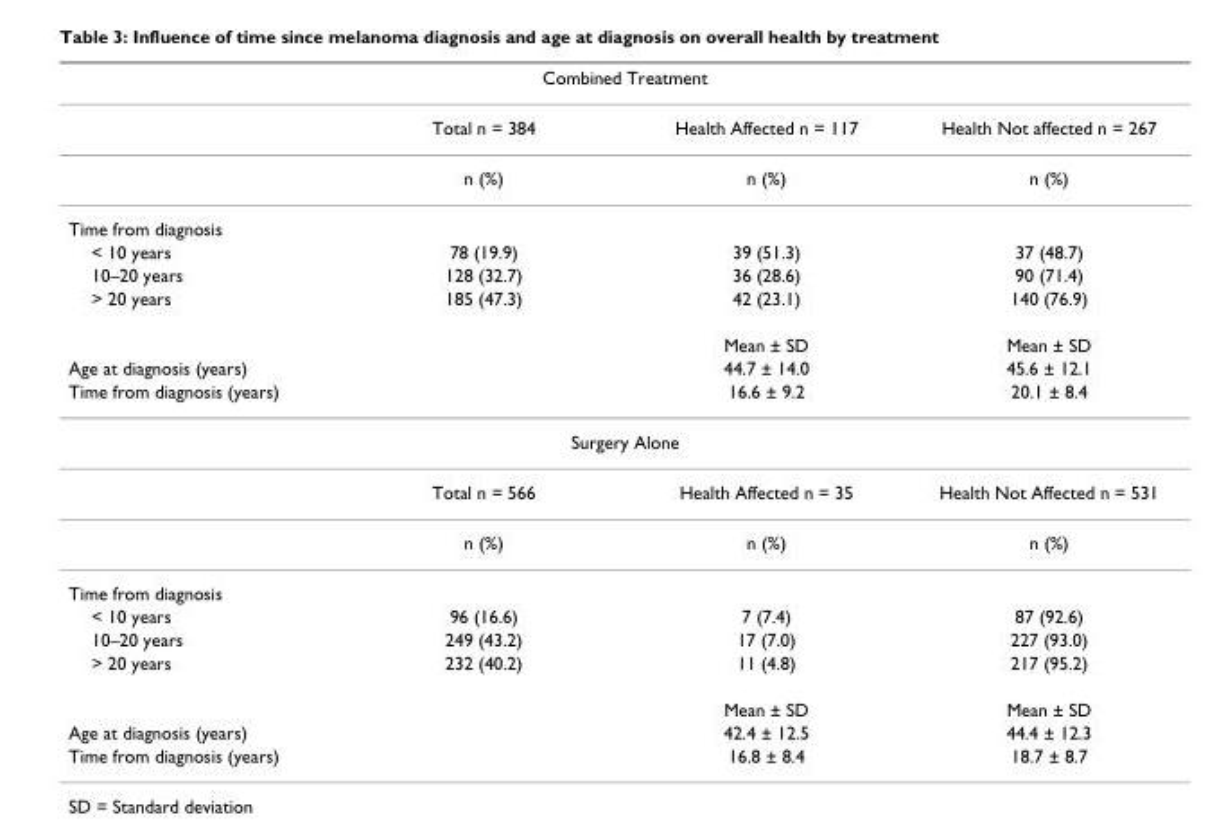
<table><thead><tr><td colspan="4">Combined Treatment</td></tr><tr><td></td><td>Total n = 384</td><td>Health Affected n = 117</td><td>Health Not affected n = 267</td></tr></thead><tbody><tr><td></td><td>n (%)</td><td>n (%)</td><td>n (%)</td></tr><tr><td colspan="4">Time from diagnosis</td></tr><tr><td>&lt; 10 years</td><td>78 (19.9)</td><td>39 (51.3)</td><td>37 (48.7)</td></tr><tr><td>10–20 years</td><td>128 (32.7)</td><td>36 (28.6)</td><td>90 (71.4)</td></tr><tr><td rowspan="2">&gt; 20 years</td><td>185 (47.3)</td><td>42 (23.1)</td><td>140 (76.9)</td></tr><tr><td></td><td>Mean ± SD</td><td>Mean ± SD</td></tr><tr><td>Age at diagnosis (years)</td><td></td><td>44.7 ± 14.0</td><td>45.6 ± 12.1</td></tr><tr><td>Time from diagnosis (years)</td><td></td><td>16.6 ± 9.2</td><td>20.1 ± 8.4</td></tr><tr><td colspan="4">Surgery Alone</td></tr><tr><td></td><td>Total n = 566</td><td>Health Affected n = 35</td><td>Health Not Affected n = 531</td></tr><tr><td></td><td>n (%)</td><td>n (%)</td><td>n (%)</td></tr><tr><td colspan="4">Time from diagnosis</td></tr><tr><td>&lt; 10 years</td><td>96 (16.6)</td><td>7 (7.4)</td><td>87 (92.6)</td></tr><tr><td>10–20 years</td><td>249 (43.2)</td><td>17 (7.0)</td><td>227 (93.0)</td></tr><tr><td rowspan="2">&gt; 20 years</td><td>232 (40.2)</td><td>11 (4.8)</td><td>217 (95.2)</td></tr><tr><td></td><td>Mean ± SD</td><td>Mean ± SD</td></tr><tr><td>Age at diagnosis (years)</td><td></td><td>42.4 ± 12.5</td><td>44.4 ± 12.3</td></tr><tr><td>Time from diagnosis (years)</td><td></td><td>16.8 ± 8.4</td><td>18.7 ± 8.7</td></tr></tbody></table>